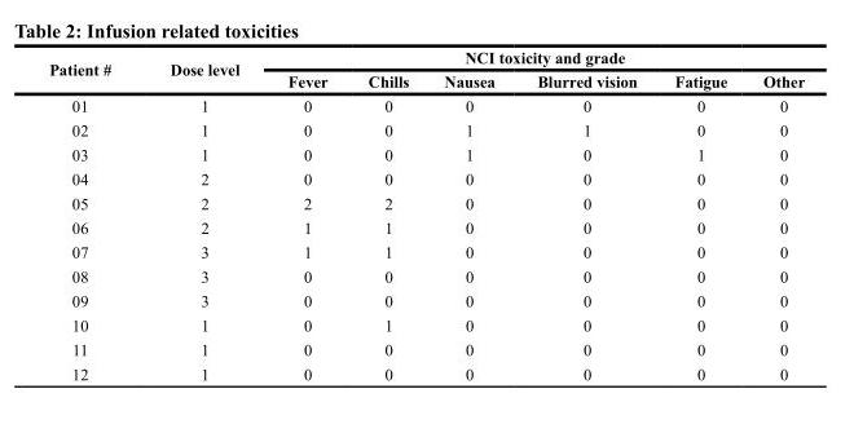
<table><thead><tr><td rowspan="2">Patient #</td><td rowspan="2">Dose level</td><td colspan="6">NCI toxicity and grade</td></tr><tr><td>Fever</td><td>Chills</td><td>Nausea</td><td>Blurred vision</td><td>Fatigue</td><td>Other</td></tr></thead><tbody><tr><td>01</td><td>1</td><td>0</td><td>0</td><td>0</td><td>0</td><td>0</td><td>0</td></tr><tr><td>02</td><td>1</td><td>0</td><td>0</td><td>1</td><td>1</td><td>0</td><td>0</td></tr><tr><td>03</td><td>1</td><td>0</td><td>0</td><td>1</td><td>0</td><td>1</td><td>0</td></tr><tr><td>04</td><td>2</td><td>0</td><td>0</td><td>0</td><td>0</td><td>0</td><td>0</td></tr><tr><td>05</td><td>2</td><td>2</td><td>2</td><td>0</td><td>0</td><td>0</td><td>0</td></tr><tr><td>06</td><td>2</td><td>1</td><td>1</td><td>0</td><td>0</td><td>0</td><td>0</td></tr><tr><td>07</td><td>3</td><td>1</td><td>1</td><td>0</td><td>0</td><td>0</td><td>0</td></tr><tr><td>08</td><td>3</td><td>0</td><td>0</td><td>0</td><td>0</td><td>0</td><td>0</td></tr><tr><td>09</td><td>3</td><td>0</td><td>0</td><td>0</td><td>0</td><td>0</td><td>0</td></tr><tr><td>10</td><td>1</td><td>0</td><td>1</td><td>0</td><td>0</td><td>0</td><td>0</td></tr><tr><td>11</td><td>1</td><td>0</td><td>0</td><td>0</td><td>0</td><td>0</td><td>0</td></tr><tr><td>12</td><td>1</td><td>0</td><td>0</td><td>0</td><td>0</td><td>0</td><td>0</td></tr></tbody></table>